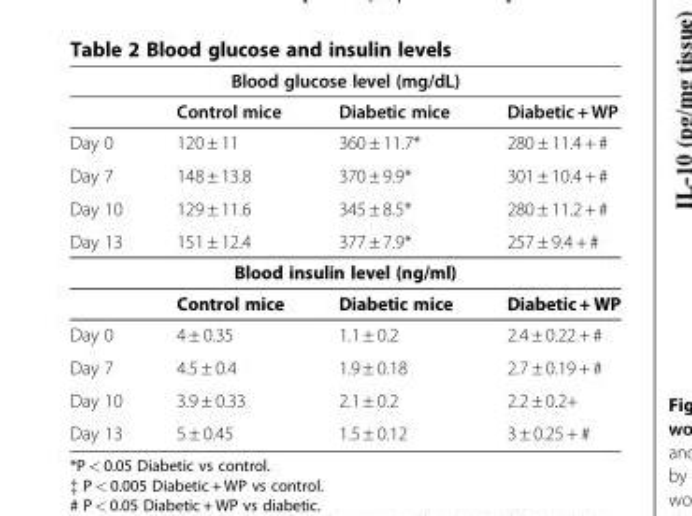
<table><thead><tr><td colspan="4">Blood glucose level (mg/dL)</td></tr><tr><td></td><td>Control mice</td><td>Diabetic mice</td><td>Diabetic + WP</td></tr></thead><tbody><tr><td>Day 0</td><td>120 ± 11</td><td>360 ± 11.7*</td><td>280 ± 11.4 + #</td></tr><tr><td>Day 7</td><td>148 ± 13.8</td><td>370 ± 9.9*</td><td>301 ± 10.4 + #</td></tr><tr><td>Day 10</td><td>129 ± 11.6</td><td>345 ± 8.5*</td><td>280 ± 11.2 + #</td></tr><tr><td>Day 13</td><td>151 ± 12.4</td><td>377 ± 7.9*</td><td>257 ± 9.4 + #</td></tr><tr><td colspan="4">Blood insulin level (ng/ml)</td></tr><tr><td></td><td>Control mice</td><td>Diabetic mice</td><td>Diabetic + WP</td></tr><tr><td>Day 0</td><td>4 ± 0.35</td><td>1.1 ± 0.2</td><td>2.4 ± 0.22 + #</td></tr><tr><td>Day 7</td><td>4.5 ± 0.4</td><td>1.9 ± 0.18</td><td>2.7 ± 0.19 + #</td></tr><tr><td>Day 10</td><td>3.9 ± 0.33</td><td>2.1 ± 0.2</td><td>2.2 ± 0.2+</td></tr><tr><td>Day 13</td><td>5 ± 0.45</td><td>1.5 ± 0.12</td><td>3 ± 0.25 + #</td></tr></tbody></table>